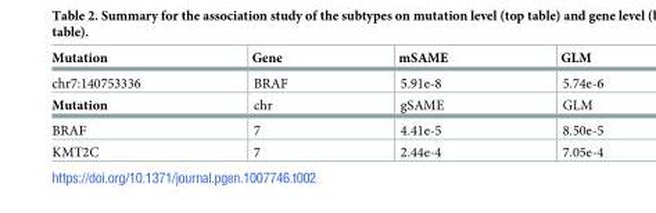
<table><thead><tr><td>Mutation</td><td>Gene</td><td>mSAME</td><td>GLM</td></tr></thead><tbody><tr><td>chr7:140753336</td><td>BRAF</td><td>5.91e-8</td><td>5.74e-6</td></tr><tr><td>Mutation</td><td>chr</td><td>gSAME</td><td>GLM</td></tr><tr><td>BRAF</td><td>7</td><td>4.41e-5</td><td>8.50e-5</td></tr><tr><td>KMT2C</td><td>7</td><td>2.44e-4</td><td>7.05e-4</td></tr></tbody></table>